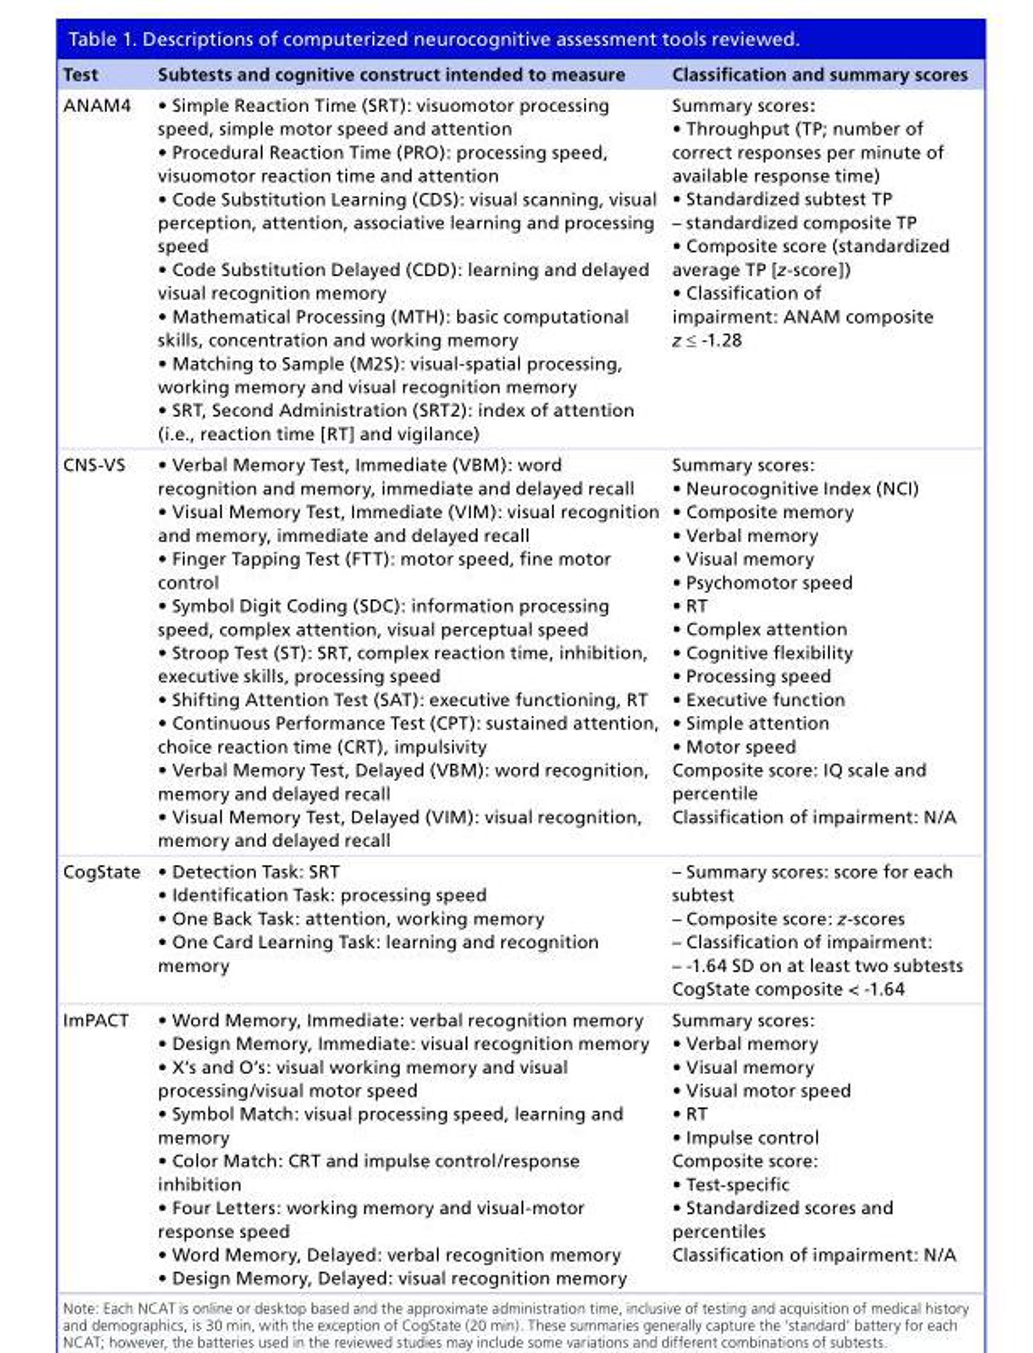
<table><thead><tr><td>Test</td><td>Subtests and cognitive construct intended to measure</td><td>Classification and summary scores</td></tr></thead><tbody><tr><td>ANAM4</td><td>• Simple Reaction Time (SRT): visuomotor processing speed, simple motor speed and attention • Procedural Reaction Time (PRO): processing speed, visuomotor reaction time and attention • Code Substitution Learning (CDS): visual scanning, visual perception, attention, associative learning and processing speed • Code Substitution Delayed (CDD): learning and delayed visual recognition memory • Mathematical Processing (MTH): basic computational skills, concentration and working memory • Matching to Sample (M2S): visual-spatial processing, working memory and visual recognition memory • SRT, Second Administration (SRT2): index of attention (i.e., reaction time [RT] and vigilance)</td><td>Summary scores: • Throughput (TP; number of correct responses per minute of available response time) • Standardized subtest TP – standardized composite TP • Composite score (standardized average TP [z-score]) • Classification of impairment: ANAM composite z ≤ -1.28</td></tr><tr><td>CNS-VS</td><td>• Verbal Memory Test, Immediate (VBM): word recognition and memory, immediate and delayed recall • Visual Memory Test, Immediate (VIM): visual recognition and memory, immediate and delayed recall • Finger Tapping Test (FTT): motor speed, fine motor control • Symbol Digit Coding (SDC): information processing speed, complex attention, visual perceptual speed • Stroop Test (ST): SRT, complex reaction time, inhibition, executive skills, processing speed • Shifting Attention Test (SAT): executive functioning, RT • Continuous Performance Test (CPT): sustained attention, choice reaction time (CRT), impulsivity • Verbal Memory Test, Delayed (VBM): word recognition, memory and delayed recall • Visual Memory Test, Delayed (VIM): visual recognition, memory and delayed recall</td><td>Summary scores: • Neurocognitive Index (NCI) • Composite memory • Verbal memory • Visual memory • Psychomotor speed • RT • Complex attention • Cognitive flexibility • Processing speed • Executive function • Simple attention • Motor speed Composite score: IQ scale and percentile Classification of impairment: N/A</td></tr><tr><td>CogState</td><td>• Detection Task: SRT • Identification Task: processing speed • One Back Task: attention, working memory • One Card Learning Task: learning and recognition memory</td><td>– Summary scores: score for each subtest – Composite score: z-scores – Classification of impairment: – -1.64 SD on at least two subtests CogState composite &lt; -1.64</td></tr><tr><td>ImPACT</td><td>• Word Memory, Immediate: verbal recognition memory • Design Memory, Immediate: visual recognition memory • X’s and O’s: visual working memory and visual processing/visual motor speed • Symbol Match: visual processing speed, learning and memory • Color Match: CRT and impulse control/response inhibition • Four Letters: working memory and visual-motor response speed • Word Memory, Delayed: verbal recognition memory • Design Memory, Delayed: visual recognition memory</td><td>Summary scores: • Verbal memory • Visual memory • Visual motor speed • RT • Impulse control Composite score: • Test-specific • Standardized scores and percentiles Classification of impairment: N/A</td></tr></tbody></table>